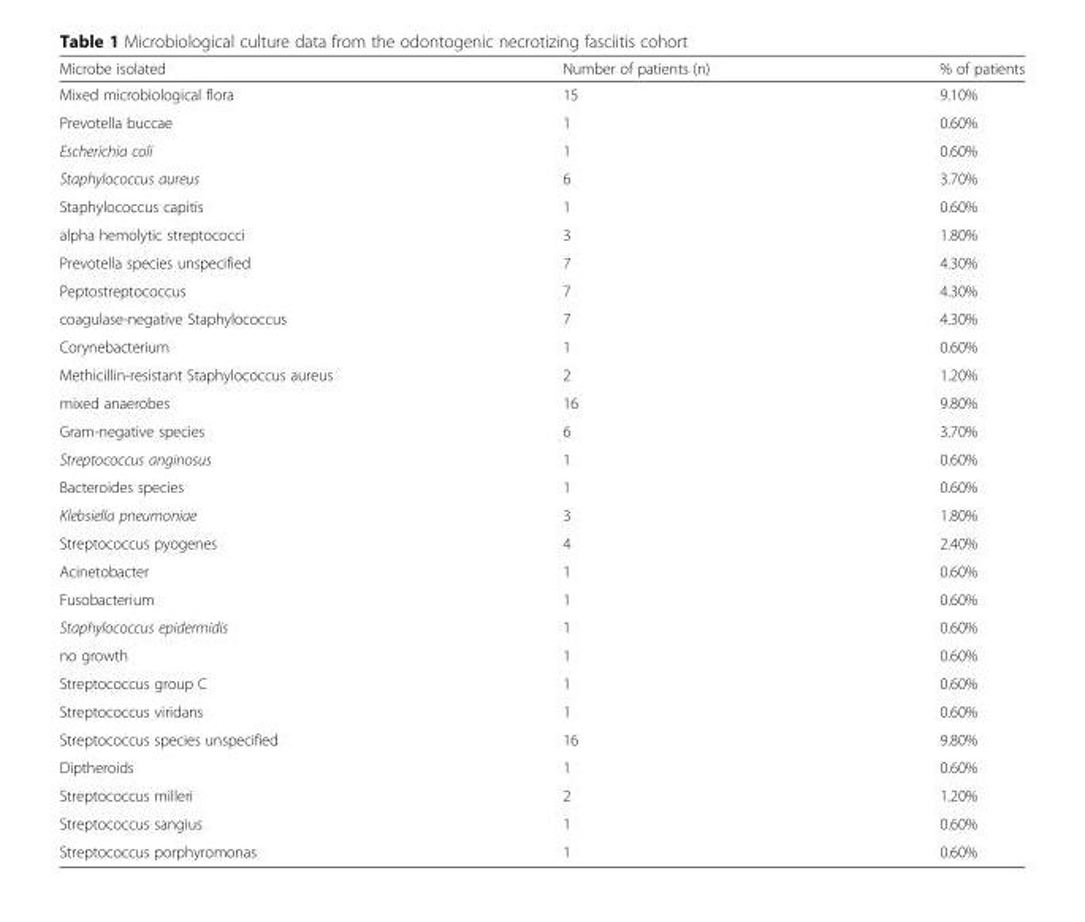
<table><thead><tr><td>Microbe isolated</td><td>Number of patients (n)</td><td>% of patients</td></tr></thead><tbody><tr><td>Mixed microbiological flora</td><td>15</td><td>9.10%</td></tr><tr><td>Prevotella buccae</td><td>1</td><td>0.60%</td></tr><tr><td>Escherichia coli</td><td>1</td><td>0.60%</td></tr><tr><td>Staphylococcus aureus</td><td>6</td><td>3.70%</td></tr><tr><td>Staphylococcus capitis</td><td>1</td><td>0.60%</td></tr><tr><td>alpha hemolytic streptococci</td><td>3</td><td>1.80%</td></tr><tr><td>Prevotella species unspecified</td><td>7</td><td>4.30%</td></tr><tr><td>Peptostreptococcus</td><td>7</td><td>4.30%</td></tr><tr><td>coagulase-negative Staphylococcus</td><td>7</td><td>4.30%</td></tr><tr><td>Corynebacterium</td><td>1</td><td>0.60%</td></tr><tr><td>Methicillin-resistant Staphylococcus aureus</td><td>2</td><td>1.20%</td></tr><tr><td>mixed anaerobes</td><td>16</td><td>9.80%</td></tr><tr><td>Gram-negative species</td><td>6</td><td>3.70%</td></tr><tr><td>Streptococcus anginosus</td><td>1</td><td>0.60%</td></tr><tr><td>Bacteroides species</td><td>1</td><td>0.60%</td></tr><tr><td>Klebsiella pneumoniae</td><td>3</td><td>1.80%</td></tr><tr><td>Streptococcus pyogenes</td><td>4</td><td>2.40%</td></tr><tr><td>Acinetobacter</td><td>1</td><td>0.60%</td></tr><tr><td>Fusobacterium</td><td>1</td><td>0.60%</td></tr><tr><td>Staphylococcus epidermidis</td><td>1</td><td>0.60%</td></tr><tr><td>no growth</td><td>1</td><td>0.60%</td></tr><tr><td>Streptococcus group C</td><td>1</td><td>0.60%</td></tr><tr><td>Streptococcus viridans</td><td>1</td><td>0.60%</td></tr><tr><td>Streptococcus species unspecified</td><td>16</td><td>9.80%</td></tr><tr><td>Diptheroids</td><td>1</td><td>0.60%</td></tr><tr><td>Streptococcus milleri</td><td>2</td><td>1.20%</td></tr><tr><td>Streptococcus sangius</td><td>1</td><td>0.60%</td></tr><tr><td>Streptococcus porphyromonas</td><td>1</td><td>0.60%</td></tr></tbody></table>